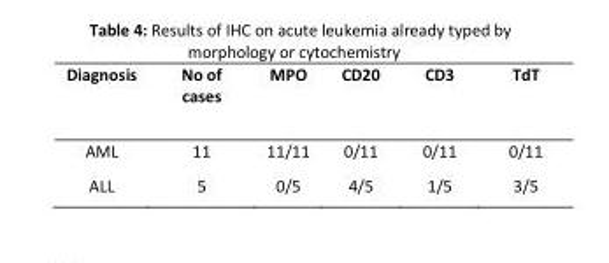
<table><thead><tr><td>Diagnosis</td><td>No of cases</td><td>MPO</td><td>CD20</td><td>CD3</td><td>TdT</td></tr></thead><tbody><tr><td>AML</td><td>11</td><td>11/11</td><td>0/11</td><td>0/11</td><td>0/11</td></tr><tr><td>ALL</td><td>5</td><td>0/5</td><td>4/5</td><td>1/5</td><td>3/5</td></tr></tbody></table>